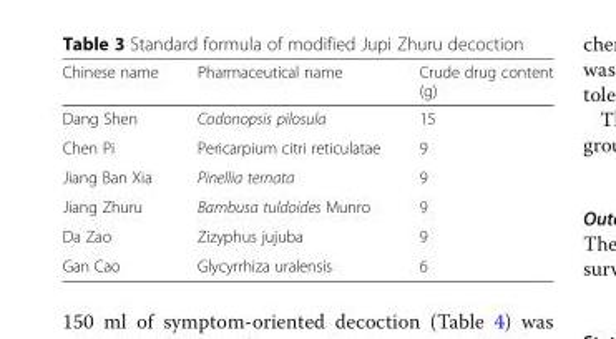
<table><thead><tr><td>Chinese name</td><td>Pharmaceutical name</td><td>Crude drug content (g)</td></tr></thead><tbody><tr><td>Dang Shen</td><td>Codonopsis pilosula</td><td>15</td></tr><tr><td>Chen Pi</td><td>Pericarpium citri reticulatae</td><td>9</td></tr><tr><td>Jiang Ban Xia</td><td>Pinellia ternata</td><td>9</td></tr><tr><td>Jiang Zhuru</td><td>Bambusa tuldoides Munro</td><td>9</td></tr><tr><td>Da Zao</td><td>Zizyphus jujuba</td><td>9</td></tr><tr><td>Gan Cao</td><td>Glycyrrhiza uralensis</td><td>6</td></tr></tbody></table>